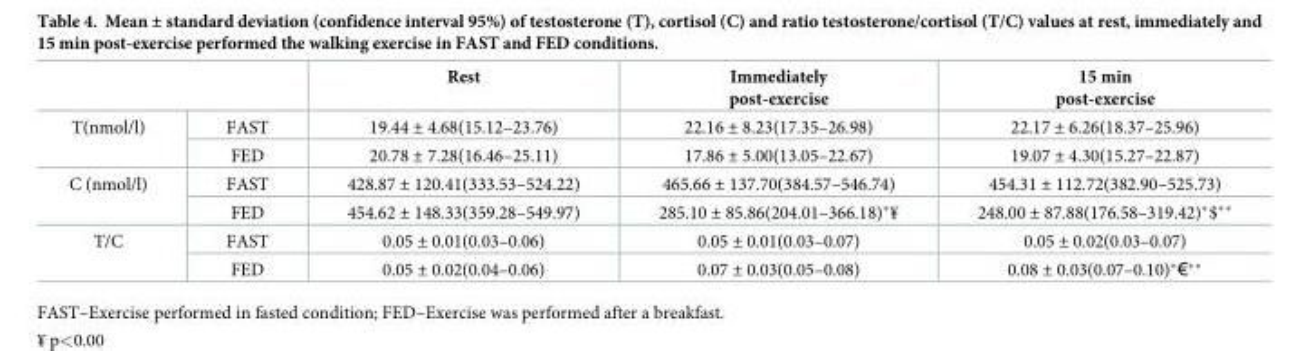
<table><thead><tr><td></td><td></td><td>Rest</td><td>Immediately post-exercise</td><td>15 min post-exercise</td></tr></thead><tbody><tr><td rowspan="2">T(nmol/l)</td><td>FAST</td><td>19.44 ± 4.68(15.12–23.76)</td><td>22.16 ± 8.23(17.35–26.98)</td><td>22.17 ± 6.26(18.37–25.96)</td></tr><tr><td>FED</td><td>20.78 ± 7.28(16.46–25.11)</td><td>17.86 ± 5.00(13.05–22.67)</td><td>19.07 ± 4.30(15.27–22.87)</td></tr><tr><td rowspan="2">C (nmol/l)</td><td>FAST</td><td>428.87 ± 120.41(333.53–524.22)</td><td>465.66 ± 137.70(384.57–546.74)</td><td>454.31 ± 112.72(382.90–525.73)</td></tr><tr><td>FED</td><td>454.62 ± 148.33(359.28–549.97)</td><td>285.10 ± 85.86(204.01–366.18)*¥</td><td>248.00 ± 87.88(176.58–319.42)*$**</td></tr><tr><td rowspan="2">T/C</td><td>FAST</td><td>0.05 ± 0.01(0.03–0.06)</td><td>0.05 ± 0.01(0.03–0.07)</td><td>0.05 ± 0.02(0.03–0.07)</td></tr><tr><td>FED</td><td>0.05 ± 0.02(0.04–0.06)</td><td>0.07 ± 0.03(0.05–0.08)</td><td>0.08 ± 0.03(0.07–0.10)*€**</td></tr></tbody></table>